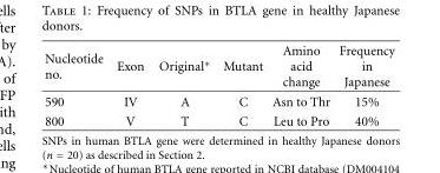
<table><thead><tr><td>Nucleotide no.</td><td>Exon</td><td>Original∗</td><td>Mutant</td><td>Amino acid change</td><td>Frequency in Japanese</td></tr></thead><tbody><tr><td>590</td><td>IV</td><td>A</td><td>C</td><td>Asn to Thr</td><td>15%</td></tr><tr><td>800</td><td>V</td><td>T</td><td>C</td><td>Leu to Pro</td><td>40%</td></tr></tbody></table>